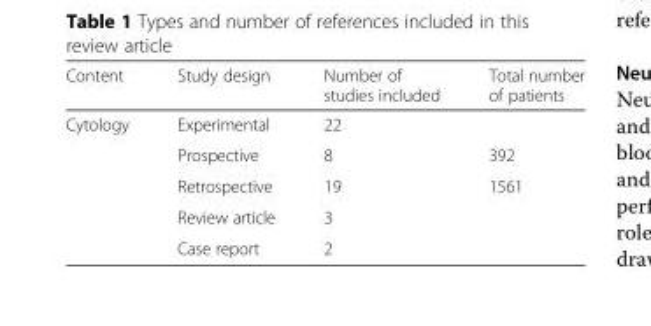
<table><thead><tr><td>Content</td><td>Study design</td><td>Number of studies included</td><td>Total number of patients</td></tr></thead><tbody><tr><td rowspan="5">Cytology</td><td>Experimental</td><td>22</td><td></td></tr><tr><td>Prospective</td><td>8</td><td>392</td></tr><tr><td>Retrospective</td><td>19</td><td>1561</td></tr><tr><td>Review article</td><td>3</td><td></td></tr><tr><td>Case report</td><td>2</td><td></td></tr></tbody></table>